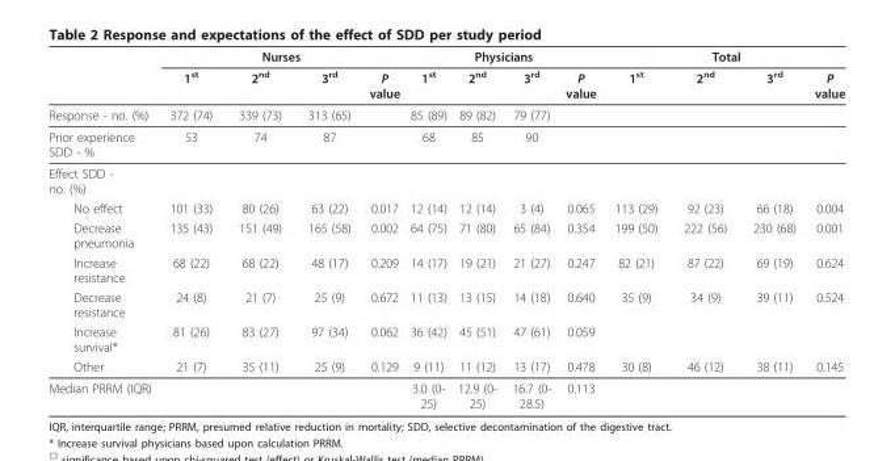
<table><thead><tr><td rowspan="2"></td><td colspan="4">Nurses</td><td colspan="4">Physicians</td><td colspan="4">Total</td></tr><tr><td>1<sup>st</sup></td><td>2<sup>nd</sup></td><td>3<sup>rd</sup></td><td>P value</td><td>1<sup>st</sup></td><td>2<sup>nd</sup></td><td>3<sup>rd</sup></td><td>P value</td><td>1<sup>st</sup></td><td>2<sup>nd</sup></td><td>3<sup>rd</sup></td><td>P value</td></tr></thead><tbody><tr><td>Response - no. (%)</td><td>372 (74)</td><td>339 (73)</td><td>313 (65)</td><td></td><td>85 (89)</td><td>89 (82)</td><td>79 (77)</td><td></td><td></td><td></td><td></td><td></td></tr><tr><td>Prior experience SDD - %</td><td>53</td><td>74</td><td>87</td><td></td><td>68</td><td>85</td><td>90</td><td></td><td></td><td></td><td></td><td></td></tr><tr><td colspan="13">Effect SDD - no. (%)</td></tr><tr><td>No effect</td><td>101 (33)</td><td>80 (26)</td><td>63 (22)</td><td>0.017</td><td>12 (14)</td><td>12 (14)</td><td>3 (4)</td><td>0.065</td><td>113 (29)</td><td>92 (23)</td><td>66 (18)</td><td>0.004</td></tr><tr><td>Decrease pneumonia</td><td>135 (43)</td><td>151 (49)</td><td>165 (58)</td><td>0.002</td><td>64 (75)</td><td>71 (80)</td><td>65 (84)</td><td>0.354</td><td>199 (50)</td><td>222 (56)</td><td>230 (68)</td><td>0.001</td></tr><tr><td>Increase resistance</td><td>68 (22)</td><td>68 (22)</td><td>48 (17)</td><td>0.209</td><td>14 (17)</td><td>19 (21)</td><td>21 (27)</td><td>0.247</td><td>82 (21)</td><td>87 (22)</td><td>69 (19)</td><td>0.624</td></tr><tr><td>Decrease resistance</td><td>24 (8)</td><td>21 (7)</td><td>25 (9)</td><td>0.672</td><td>11 (13)</td><td>13 (15)</td><td>14 (18)</td><td>0.640</td><td>35 (9)</td><td>34 (9)</td><td>39 (11)</td><td>0.524</td></tr><tr><td>Increase survival*</td><td>81 (26)</td><td>83 (27)</td><td>97 (34)</td><td>0.062</td><td>36 (42)</td><td>45 (51)</td><td>47 (61)</td><td>0.059</td><td></td><td></td><td></td><td></td></tr><tr><td>Other</td><td>21 (7)</td><td>35 (11)</td><td>25 (9)</td><td>0.129</td><td>9 (11)</td><td>11 (12)</td><td>13 (17)</td><td>0.478</td><td>30 (8)</td><td>46 (12)</td><td>38 (11)</td><td>0.145</td></tr><tr><td>Median PRRM (IQR)</td><td></td><td></td><td></td><td></td><td>3.0 (0- 25)</td><td>12.9 (0- 25)</td><td>16.7 (0- 28.5)</td><td>0.113</td><td></td><td></td><td></td><td></td></tr></tbody></table>